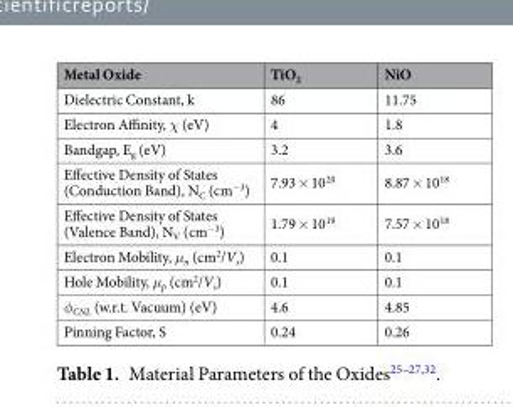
<table><thead><tr><td>Metal Oxide</td><td>TiO<sub>2</sub></td><td>NiO</td></tr></thead><tbody><tr><td>Dielectric Constant, k</td><td>86</td><td>11.75</td></tr><tr><td>Electron Affinity, χ (eV)</td><td>4</td><td>1.8</td></tr><tr><td>Bandgap, E<sub>g</sub> (eV)</td><td>3.2</td><td>3.6</td></tr><tr><td>Effective Density of States (Conduction Band), N<sub>C</sub> (cm<sup>−3</sup>)</td><td>7.93 × 10<sup>20</sup></td><td>8.87 × 10<sup>18</sup></td></tr><tr><td>Effective Density of States (Valence Band), N<sub>V</sub> (cm<sup>−3</sup>)</td><td>1.79 × 10<sup>19</sup></td><td>7.57 × 10<sup>18</sup></td></tr><tr><td>Electron Mobility, μ<sub>n</sub> (cm<sup>2</sup>/V<sub>s</sub>)</td><td>0.1</td><td>0.1</td></tr><tr><td>Hole Mobility, μ<sub>p</sub> (cm<sup>2</sup>/V<sub>s</sub>)</td><td>0.1</td><td>0.1</td></tr><tr><td>φ<sub>CNL</sub> (w.r.t. Vacuum) (eV)</td><td>4.6</td><td>4.85</td></tr><tr><td>Pinning Factor, S</td><td>0.24</td><td>0.26</td></tr></tbody></table>